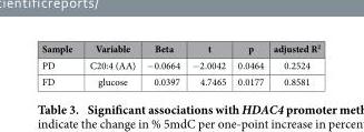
<table><thead><tr><td>Sample</td><td>Variable</td><td>Beta</td><td>t</td><td>p</td><td>adjusted R<sup>2</sup></td></tr></thead><tbody><tr><td>PD</td><td>C20:4 (AA)</td><td>−0.0664</td><td>−2.0042</td><td>0.0464</td><td>0.2524</td></tr><tr><td>FD</td><td>glucose</td><td>0.0397</td><td>4.7465</td><td>0.0177</td><td>0.8581</td></tr></tbody></table>